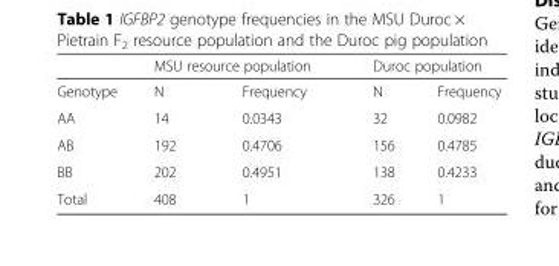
<table><thead><tr><td rowspan="2">Genotype</td><td colspan="2">MSU resource population</td><td colspan="2">Duroc population</td></tr><tr><td>N</td><td>Frequency</td><td>N</td><td>Frequency</td></tr></thead><tbody><tr><td>AA</td><td>14</td><td>0.0343</td><td>32</td><td>0.0982</td></tr><tr><td>AB</td><td>192</td><td>0.4706</td><td>156</td><td>0.4785</td></tr><tr><td>BB</td><td>202</td><td>0.4951</td><td>138</td><td>0.4233</td></tr><tr><td>Total</td><td>408</td><td>1</td><td>326</td><td>1</td></tr></tbody></table>